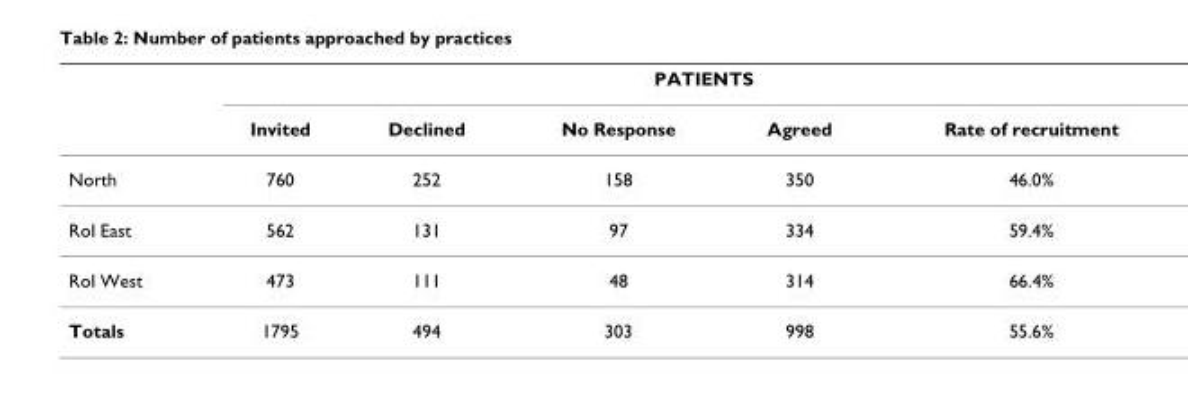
<table><thead><tr><td rowspan="2"></td><td colspan="5">PATIENTS</td></tr><tr><td>Invited</td><td>Declined</td><td>No Response</td><td>Agreed</td><td>Rate of recruitment</td></tr></thead><tbody><tr><td>North</td><td>760</td><td>252</td><td>158</td><td>350</td><td>46.0%</td></tr><tr><td>RoI East</td><td>562</td><td>131</td><td>97</td><td>334</td><td>59.4%</td></tr><tr><td>RoI West</td><td>473</td><td>111</td><td>48</td><td>314</td><td>66.4%</td></tr><tr><td>Totals</td><td>1795</td><td>494</td><td>303</td><td>998</td><td>55.6%</td></tr></tbody></table>